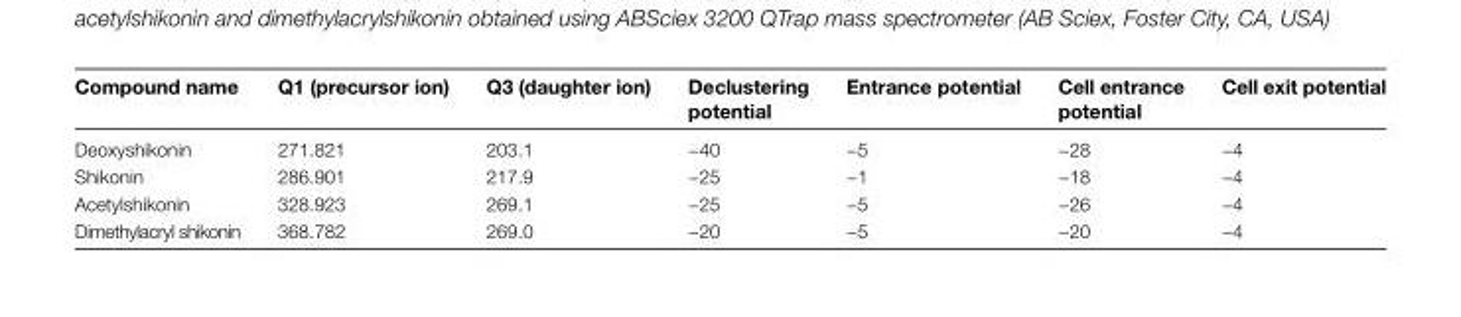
<table><thead><tr><td>Compound name</td><td>Q1 (precursor ion)</td><td>Q3 (daughter ion)</td><td>Declustering potential</td><td>Entrance potential</td><td>Cell entrance potential</td><td>Cell exit potential</td></tr></thead><tbody><tr><td>Deoxyshikonin</td><td>271.821</td><td>203.1</td><td>−40</td><td>−5</td><td>−28</td><td>−4</td></tr><tr><td>Shikonin</td><td>286.901</td><td>217.9</td><td>−25</td><td>−1</td><td>−18</td><td>−4</td></tr><tr><td>Acetylshikonin</td><td>328.923</td><td>269.1</td><td>−25</td><td>−5</td><td>−26</td><td>−4</td></tr><tr><td>Dimethylacryl shikonin</td><td>368.782</td><td>269.0</td><td>−20</td><td>−5</td><td>−20</td><td>−4</td></tr></tbody></table>